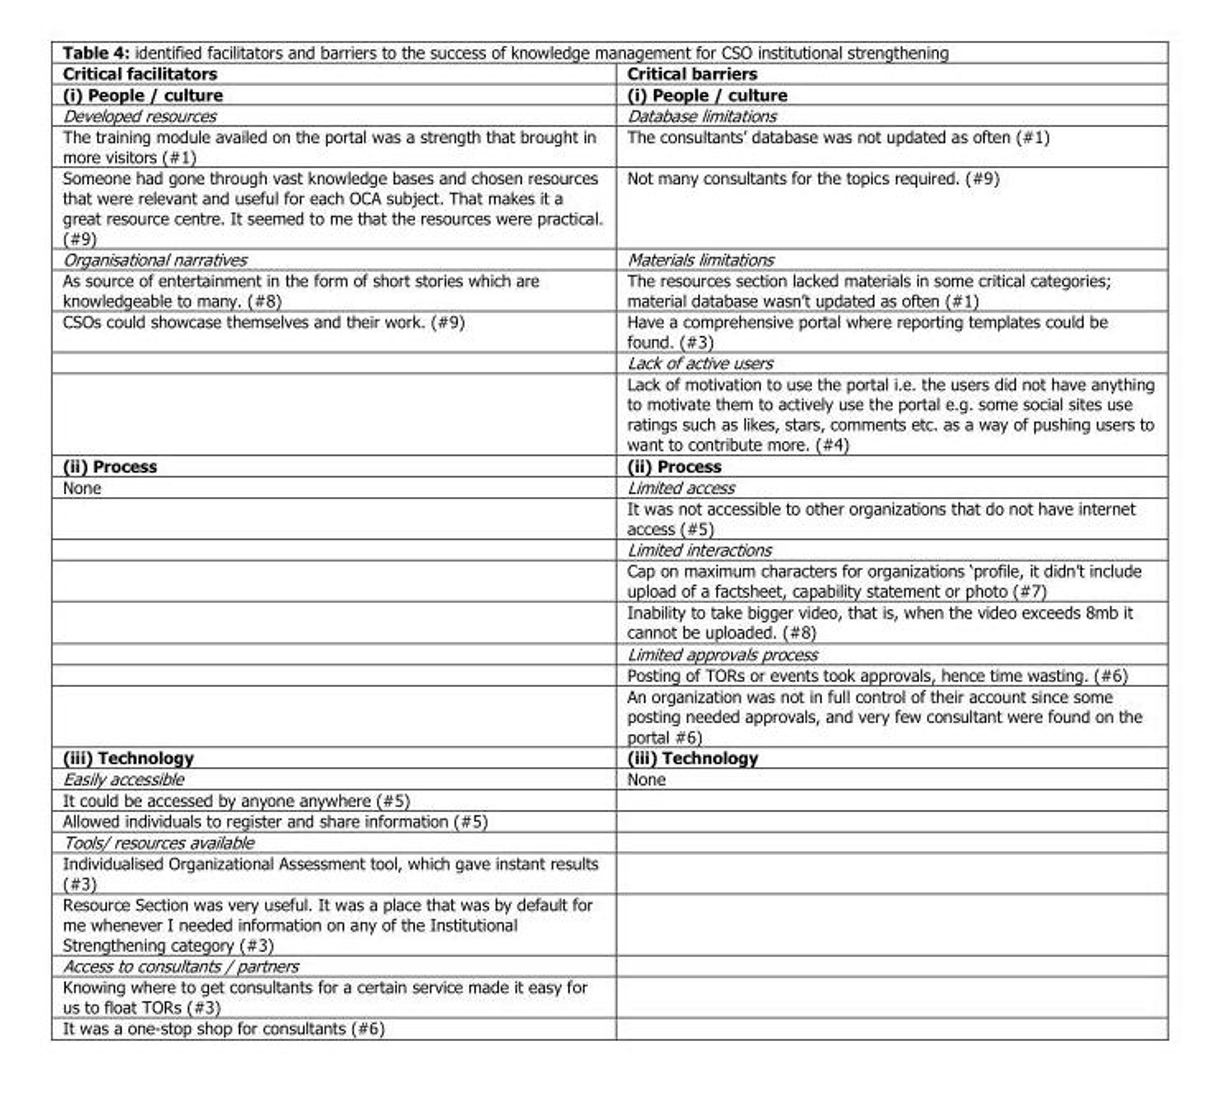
<table><thead><tr><td>Critical facilitators</td><td>Critical barriers</td></tr></thead><tbody><tr><td>(i) People / culture</td><td>(i) People / culture</td></tr><tr><td>Developed resources</td><td>Database limitations</td></tr><tr><td>The training module availed on the portal was a strength that brought in more visitors (#1)</td><td>The consultants’ database was not updated as often (#1)</td></tr><tr><td>Someone had gone through vast knowledge bases and chosen resources that were relevant and useful for each OCA subject. That makes it a great resource centre. It seemed to me that the resources were practical. (#9)</td><td>Not many consultants for the topics required. (#9)</td></tr><tr><td>Organisational narratives</td><td>Materials limitations</td></tr><tr><td>As source of entertainment in the form of short stories which are knowledgeable to many. (#8)</td><td>The resources section lacked materials in some critical categories; material database wasn’t updated as often (#1)</td></tr><tr><td rowspan="3">CSOs could showcase themselves and their work. (#9)</td><td>Have a comprehensive portal where reporting templates could be found. (#3)</td></tr><tr><td>Lack of active users</td></tr><tr><td>Lack of motivation to use the portal i.e. the users did not have anything to motivate them to actively use the portal e.g. some social sites use ratings such as likes, stars, comments etc. as a way of pushing users to want to contribute more. (#4)</td></tr><tr><td>(ii) Process</td><td>(ii) Process</td></tr><tr><td rowspan="8">None</td><td>Limited access</td></tr><tr><td>It was not accessible to other organizations that do not have internet access (#5)</td></tr><tr><td>Limited interactions</td></tr><tr><td>Cap on maximum characters for organizations ‘profile, it didn’t include upload of a factsheet, capability statement or photo (#7)</td></tr><tr><td>Inability to take bigger video, that is, when the video exceeds 8mb it cannot be uploaded. (#8)</td></tr><tr><td>Limited approvals process</td></tr><tr><td>Posting of TORs or events took approvals, hence time wasting. (#6)</td></tr><tr><td>An organization was not in full control of their account since some posting needed approvals, and very few consultant were found on the portal #6)</td></tr><tr><td>(iii) Technology</td><td>(iii) Technology</td></tr><tr><td>Easily accessible</td><td>None</td></tr><tr><td colspan="2">It could be accessed by anyone anywhere (#5)</td></tr><tr><td colspan="2">Allowed individuals to register and share information (#5)</td></tr><tr><td colspan="2">Tools/ resources available</td></tr><tr><td colspan="2">Individualised Organizational Assessment tool, which gave instant results (#3)</td></tr><tr><td colspan="2">Resource Section was very useful. It was a place that was by default for me whenever I needed information on any of the Institutional Strengthening category (#3)</td></tr><tr><td colspan="2">Access to consultants / partners</td></tr><tr><td colspan="2">Knowing where to get consultants for a certain service made it easy for us to float TORs (#3)</td></tr><tr><td>It was a one-stop shop for consultants (#6)</td><td></td></tr></tbody></table>